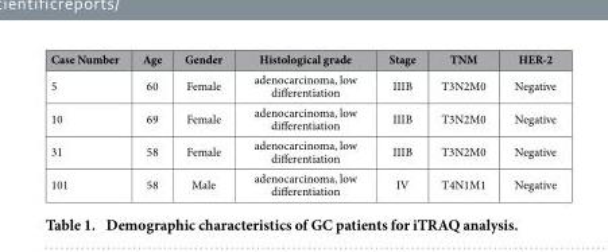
<table><thead><tr><td>Case Number</td><td>Age</td><td>Gender</td><td>Histological grade</td><td>Stage</td><td>TNM</td><td>HER-2</td></tr></thead><tbody><tr><td>5</td><td>60</td><td>Female</td><td>adenocarcinoma, low differentiation</td><td>IIIB</td><td>T3N2M0</td><td>Negative</td></tr><tr><td>10</td><td>69</td><td>Female</td><td>adenocarcinoma, low differentiation</td><td>IIIB</td><td>T3N2M0</td><td>Negative</td></tr><tr><td>31</td><td>58</td><td>Female</td><td>adenocarcinoma, low differentiation</td><td>IIIB</td><td>T3N2M0</td><td>Negative</td></tr><tr><td>101</td><td>58</td><td>Male</td><td>adenocarcinoma, low differentiation</td><td>IV</td><td>T4N1M1</td><td>Negative</td></tr></tbody></table>